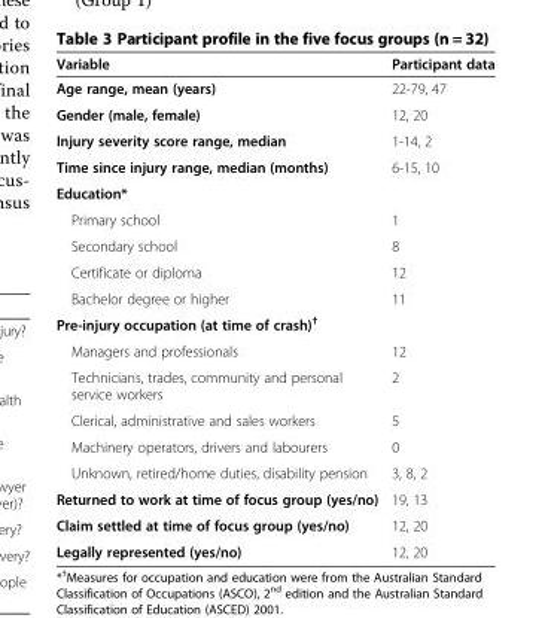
<table><thead><tr><td>Variable</td><td>Participant data</td></tr></thead><tbody><tr><td>Age range, mean (years)</td><td>22-79, 47</td></tr><tr><td>Gender (male, female)</td><td>12, 20</td></tr><tr><td>Injury severity score range, median</td><td>1-14, 2</td></tr><tr><td>Time since injury range, median (months)</td><td>6-15, 10</td></tr><tr><td colspan="2">Education*</td></tr><tr><td>Primary school</td><td>1</td></tr><tr><td>Secondary school</td><td>8</td></tr><tr><td>Certificate or diploma</td><td>12</td></tr><tr><td>Bachelor degree or higher</td><td>11</td></tr><tr><td colspan="2">Pre-injury occupation (at time of crash)<sup>†</sup></td></tr><tr><td>Managers and professionals</td><td>12</td></tr><tr><td>Technicians, trades, community and personal service workers</td><td>2</td></tr><tr><td>Clerical, administrative and sales workers</td><td>5</td></tr><tr><td>Machinery operators, drivers and labourers</td><td>0</td></tr><tr><td>Unknown, retired/home duties, disability pension</td><td>3, 8, 2</td></tr><tr><td>Returned to work at time of focus group (yes/no)</td><td>19, 13</td></tr><tr><td>Claim settled at time of focus group (yes/no)</td><td>12, 20</td></tr><tr><td>Legally represented (yes/no)</td><td>12, 20</td></tr></tbody></table>